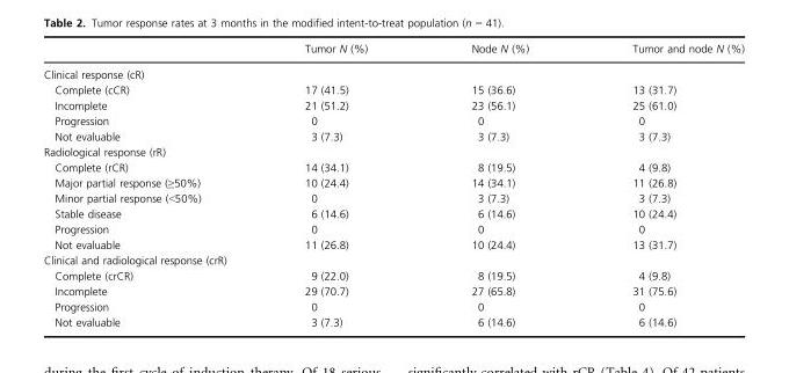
<table><thead><tr><td></td><td>Tumor N (%)</td><td>Node N (%)</td><td>Tumor and node N (%)</td></tr></thead><tbody><tr><td colspan="4">Clinical response (cR)</td></tr><tr><td>Complete (cCR)</td><td>17 (41.5)</td><td>15 (36.6)</td><td>13 (31.7)</td></tr><tr><td>Incomplete</td><td>21 (51.2)</td><td>23 (56.1)</td><td>25 (61.0)</td></tr><tr><td>Progression</td><td>0</td><td>0</td><td>0</td></tr><tr><td>Not evaluable</td><td>3 (7.3)</td><td>3 (7.3)</td><td>3 (7.3)</td></tr><tr><td colspan="4">Radiological response (rR)</td></tr><tr><td>Complete (rCR)</td><td>14 (34.1)</td><td>8 (19.5)</td><td>4 (9.8)</td></tr><tr><td>Major partial response (≥50%)</td><td>10 (24.4)</td><td>14 (34.1)</td><td>11 (26.8)</td></tr><tr><td>Minor partial response (&lt;50%)</td><td>0</td><td>3 (7.3)</td><td>3 (7.3)</td></tr><tr><td>Stable disease</td><td>6 (14.6)</td><td>6 (14.6)</td><td>10 (24.4)</td></tr><tr><td>Progression</td><td>0</td><td>0</td><td>0</td></tr><tr><td>Not evaluable</td><td>11 (26.8)</td><td>10 (24.4)</td><td>13 (31.7)</td></tr><tr><td colspan="4">Clinical and radiological response (crR)</td></tr><tr><td>Complete (crCR)</td><td>9 (22.0)</td><td>8 (19.5)</td><td>4 (9.8)</td></tr><tr><td>Incomplete</td><td>29 (70.7)</td><td>27 (65.8)</td><td>31 (75.6)</td></tr><tr><td>Progression</td><td>0</td><td>0</td><td>0</td></tr><tr><td>Not evaluable</td><td>3 (7.3)</td><td>6 (14.6)</td><td>6 (14.6)</td></tr></tbody></table>